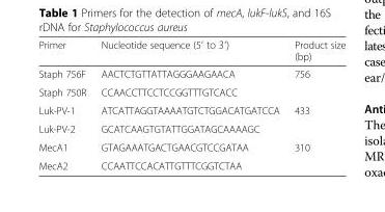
<table><thead><tr><td>Primer</td><td>Nucleotide sequence (5′ to 3′)</td><td>Product size (bp)</td></tr></thead><tbody><tr><td>Staph 756F</td><td>AACTCTGTTATTAGGGAAGAACA</td><td rowspan="2">756</td></tr><tr><td>Staph 750R</td><td>CCAACCTTCCTCCGGTTTGTCACC</td></tr><tr><td>Luk-PV-1</td><td>ATCATTAGGTAAAATGTCTGGACATGATCCA</td><td rowspan="2">433</td></tr><tr><td>Luk-PV-2</td><td>GCATCAAGTGTATTGGATAGCAAAAGC</td></tr><tr><td>MecA1</td><td>GTAGAAATGACTGAACGTCCGATAA</td><td rowspan="2">310</td></tr><tr><td>MecA2</td><td>CCAATTCCACATTGTTTCGGTCTAA</td></tr></tbody></table>